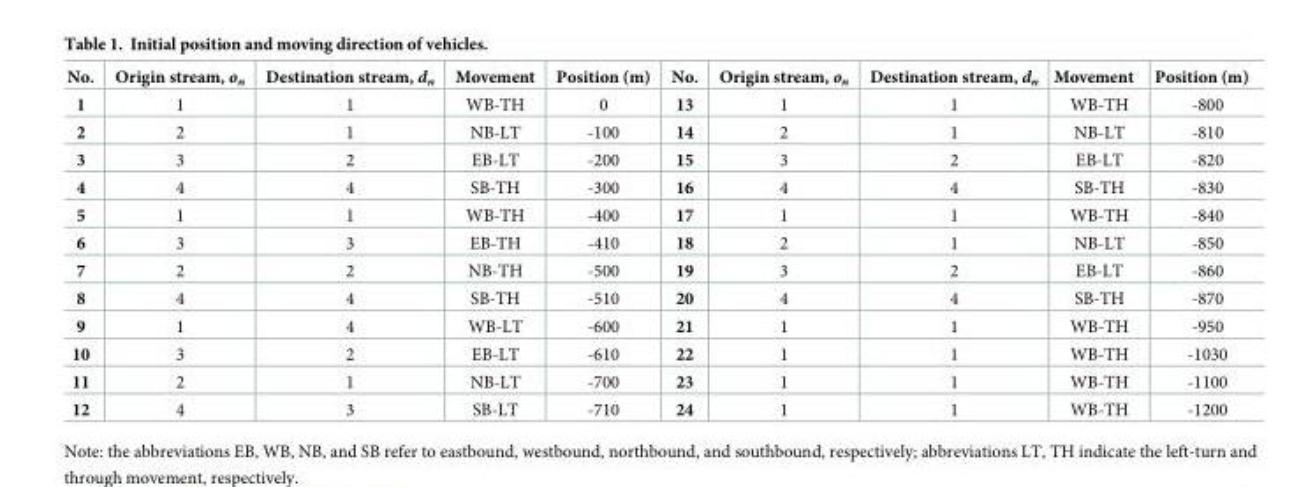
<table><thead><tr><td>No.</td><td>Origin stream, o<sub>n</sub></td><td>Destination stream, d<sub>n</sub></td><td>Movement</td><td>Position (m)</td><td>No.</td><td>Origin stream, o<sub>n</sub></td><td>Destination stream, d<sub>n</sub></td><td>Movement</td><td>Position (m)</td></tr></thead><tbody><tr><td>1</td><td>1</td><td>1</td><td>WB-TH</td><td>0</td><td>13</td><td>1</td><td>1</td><td>WB-TH</td><td>-800</td></tr><tr><td>2</td><td>2</td><td>1</td><td>NB-LT</td><td>-100</td><td>14</td><td>2</td><td>1</td><td>NB-LT</td><td>-810</td></tr><tr><td>3</td><td>3</td><td>2</td><td>EB-LT</td><td>-200</td><td>15</td><td>3</td><td>2</td><td>EB-LT</td><td>-820</td></tr><tr><td>4</td><td>4</td><td>4</td><td>SB-TH</td><td>-300</td><td>16</td><td>4</td><td>4</td><td>SB-TH</td><td>-830</td></tr><tr><td>5</td><td>1</td><td>1</td><td>WB-TH</td><td>-400</td><td>17</td><td>1</td><td>1</td><td>WB-TH</td><td>-840</td></tr><tr><td>6</td><td>3</td><td>3</td><td>EB-TH</td><td>-410</td><td>18</td><td>2</td><td>1</td><td>NB-LT</td><td>-850</td></tr><tr><td>7</td><td>2</td><td>2</td><td>NB-TH</td><td>-500</td><td>19</td><td>3</td><td>2</td><td>EB-LT</td><td>-860</td></tr><tr><td>8</td><td>4</td><td>4</td><td>SB-TH</td><td>-510</td><td>20</td><td>4</td><td>4</td><td>SB-TH</td><td>-870</td></tr><tr><td>9</td><td>1</td><td>4</td><td>WB-LT</td><td>-600</td><td>21</td><td>1</td><td>1</td><td>WB-TH</td><td>-950</td></tr><tr><td>10</td><td>3</td><td>2</td><td>EB-LT</td><td>-610</td><td>22</td><td>1</td><td>1</td><td>WB-TH</td><td>-1030</td></tr><tr><td>11</td><td>2</td><td>1</td><td>NB-LT</td><td>-700</td><td>23</td><td>1</td><td>1</td><td>WB-TH</td><td>-1100</td></tr><tr><td>12</td><td>4</td><td>3</td><td>SB-LT</td><td>-710</td><td>24</td><td>1</td><td>1</td><td>WB-TH</td><td>-1200</td></tr></tbody></table>